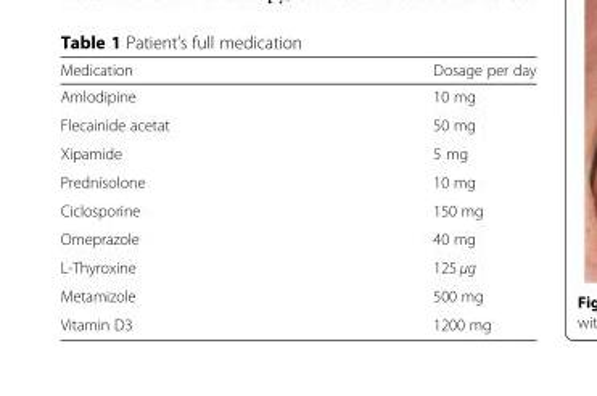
<table><thead><tr><td>Medication</td><td>Dosage per day</td></tr></thead><tbody><tr><td>Amlodipine</td><td>10 mg</td></tr><tr><td>Flecainide acetat</td><td>50 mg</td></tr><tr><td>Xipamide</td><td>5 mg</td></tr><tr><td>Prednisolone</td><td>10 mg</td></tr><tr><td>Ciclosporine</td><td>150 mg</td></tr><tr><td>Omeprazole</td><td>40 mg</td></tr><tr><td>L-Thyroxine</td><td>125 μg</td></tr><tr><td>Metamizole</td><td>500 mg</td></tr><tr><td>Vitamin D3</td><td>1200 mg</td></tr></tbody></table>